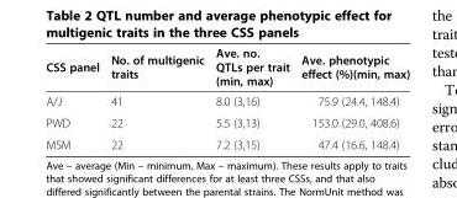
<table><thead><tr><td>CSS panel</td><td>No. of multigenic traits</td><td>Ave. no. QTLs per trait (min, max)</td><td>Ave. phenotypic effect (%)(min, max)</td></tr></thead><tbody><tr><td>A/J</td><td>41</td><td>8.0 (3,16)</td><td>75.9 (24.4, 148.4)</td></tr><tr><td>PWD</td><td>22</td><td>5.5 (3,13)</td><td>153.0 (29.0, 408.6)</td></tr><tr><td>MSM</td><td>22</td><td>7.2 (3,15)</td><td>47.4 (16.6, 148.4)</td></tr></tbody></table>